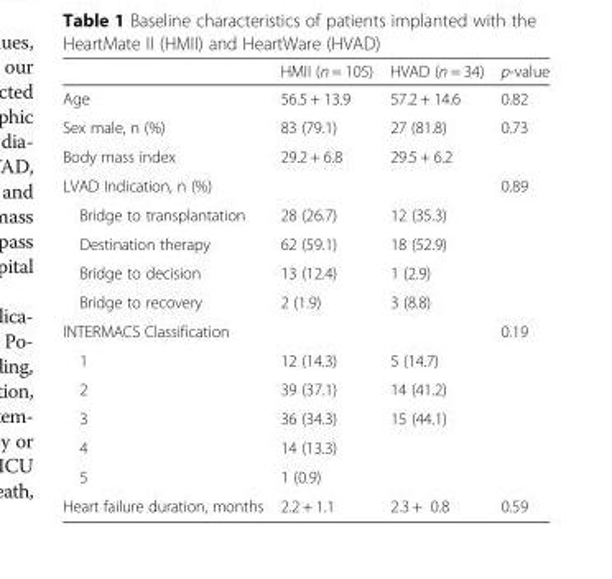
<table><thead><tr><td></td><td>HMII (n = 105)</td><td>HVAD (n = 34)</td><td>p-value</td></tr></thead><tbody><tr><td>Age</td><td>56.5 + 13.9</td><td>57.2 + 14.6</td><td>0.82</td></tr><tr><td>Sex male, n (%)</td><td>83 (79.1)</td><td>27 (81.8)</td><td>0.73</td></tr><tr><td>Body mass index</td><td>29.2 + 6.8</td><td>29.5 + 6.2</td><td></td></tr><tr><td>LVAD Indication, n (%)</td><td></td><td></td><td>0.89</td></tr><tr><td>Bridge to transplantation</td><td>28 (26.7)</td><td>12 (35.3)</td><td></td></tr><tr><td>Destination therapy</td><td>62 (59.1)</td><td>18 (52.9)</td><td></td></tr><tr><td>Bridge to decision</td><td>13 (12.4)</td><td>1 (2.9)</td><td></td></tr><tr><td>Bridge to recovery</td><td>2 (1.9)</td><td>3 (8.8)</td><td></td></tr><tr><td>INTERMACS Classification</td><td></td><td></td><td>0.19</td></tr><tr><td>1</td><td>12 (14.3)</td><td>5 (14.7)</td><td></td></tr><tr><td>2</td><td>39 (37.1)</td><td>14 (41.2)</td><td></td></tr><tr><td>3</td><td>36 (34.3)</td><td>15 (44.1)</td><td></td></tr><tr><td>4</td><td>14 (13.3)</td><td></td><td></td></tr><tr><td>5</td><td>1 (0.9)</td><td></td><td></td></tr><tr><td>Heart failure duration, months</td><td>2.2 + 1.1</td><td>2.3 + 0.8</td><td>0.59</td></tr></tbody></table>